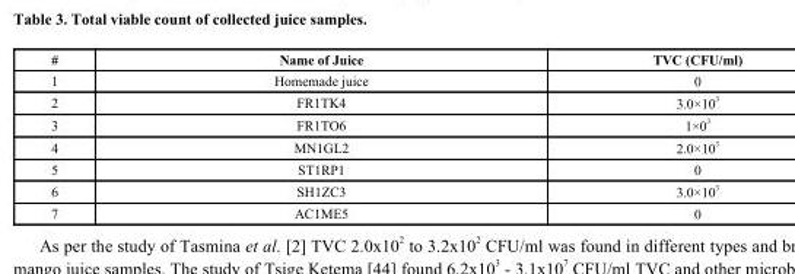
<table><thead><tr><td>#</td><td>Name of Juice</td><td>TVC (CFU/ml)</td></tr></thead><tbody><tr><td>1</td><td>Homemade juice</td><td>0</td></tr><tr><td>2</td><td>FR1TK4</td><td>3.0×10 <sup>3</sup></td></tr><tr><td>3</td><td>FR1TO6</td><td>1×0 <sup>3</sup></td></tr><tr><td>4</td><td>MN1GL2</td><td>2.0×10 <sup>3</sup></td></tr><tr><td>5</td><td>ST1RP1</td><td>0</td></tr><tr><td>6</td><td>SH1ZC3</td><td>3.0×10 <sup>3</sup></td></tr><tr><td>7</td><td>AC1ME5</td><td>0</td></tr></tbody></table>